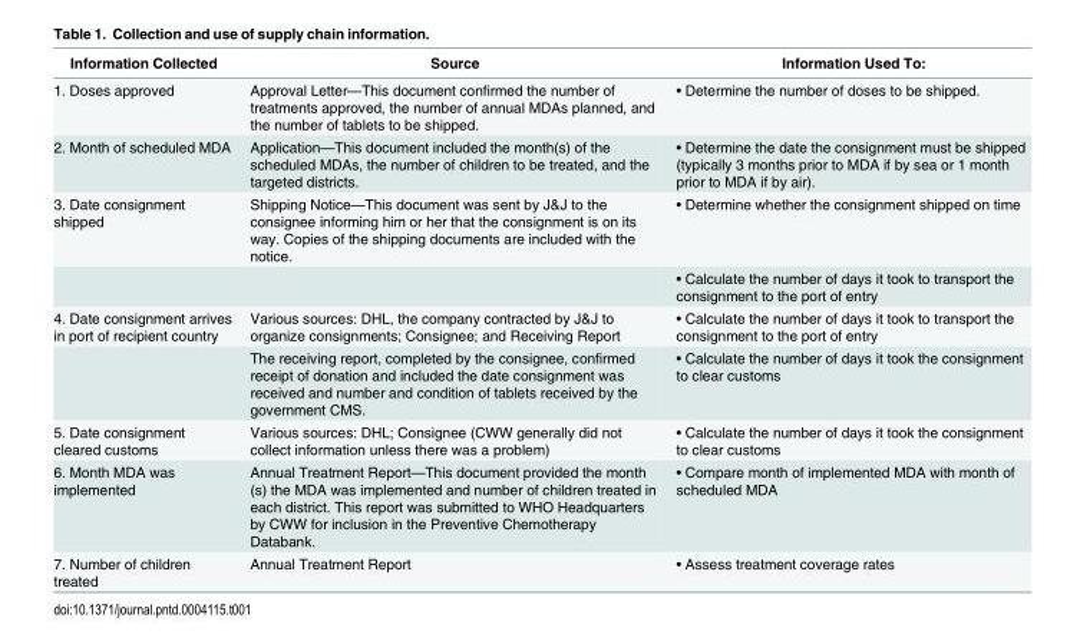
<table><thead><tr><td>Information Collected</td><td>Source</td><td>Information Used To:</td></tr></thead><tbody><tr><td>1. Doses approved</td><td>Approval Letter—This document confirmed the number of treatments approved, the number of annual MDAs planned, and the number of tablets to be shipped.</td><td>• Determine the number of doses to be shipped.</td></tr><tr><td>2. Month of scheduled MDA</td><td>Application—This document included the month(s) of the scheduled MDAs, the number of children to be treated, and the targeted districts.</td><td>• Determine the date the consignment must be shipped (typically 3 months prior to MDA if by sea or 1 month prior to MDA if by air).</td></tr><tr><td rowspan="2">3. Date consignment shipped</td><td>Shipping Notice—This document was sent by J&amp;J to the consignee informing him or her that the consignment is on its way. Copies of the shipping documents are included with the notice.</td><td>• Determine whether the consignment shipped on time</td></tr><tr><td></td><td>• Calculate the number of days it took to transport the consignment to the port of entry</td></tr><tr><td rowspan="2">4. Date consignment arrives in port of recipient country</td><td>Various sources: DHL, the company contracted by J&amp;J to organize consignments; Consignee; and Receiving Report</td><td>• Calculate the number of days it took to transport the consignment to the port of entry</td></tr><tr><td>The receiving report, completed by the consignee, confirmed receipt of donation and included the date consignment was received and number and condition of tablets received by the government CMS.</td><td>• Calculate the number of days it took the consignment to clear customs</td></tr><tr><td>5. Date consignment cleared customs</td><td>Various sources: DHL; Consignee (CWW generally did not collect information unless there was a problem)</td><td>• Calculate the number of days it took the consignment to clear customs</td></tr><tr><td>6. Month MDA was implemented</td><td>Annual Treatment Report—This document provided the month (s) the MDA was implemented and number of children treated in each district. This report was submitted to WHO Headquarters by CWW for inclusion in the Preventive Chemotherapy Databank.</td><td>• Compare month of implemented MDA with month of scheduled MDA</td></tr><tr><td>7. Number of children treated</td><td>Annual Treatment Report</td><td>• Assess treatment coverage rates</td></tr></tbody></table>